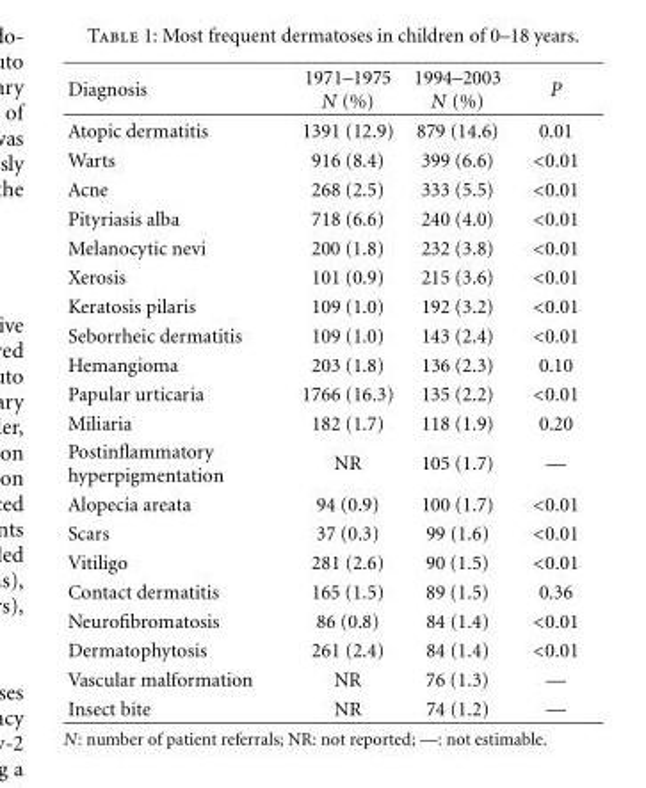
<table><thead><tr><td>Diagnosis</td><td>1971–1975 N (%)</td><td>1994–2003 N (%)</td><td>P</td></tr></thead><tbody><tr><td>Atopic dermatitis</td><td>1391 (12.9)</td><td>879 (14.6)</td><td>0.01</td></tr><tr><td>Warts</td><td>916 (8.4)</td><td>399 (6.6)</td><td>&lt;0.01</td></tr><tr><td>Acne</td><td>268 (2.5)</td><td>333 (5.5)</td><td>&lt;0.01</td></tr><tr><td>Pityriasis alba</td><td>718 (6.6)</td><td>240 (4.0)</td><td>&lt;0.01</td></tr><tr><td>Melanocytic nevi</td><td>200 (1.8)</td><td>232 (3.8)</td><td>&lt;0.01</td></tr><tr><td>Xerosis</td><td>101 (0.9)</td><td>215 (3.6)</td><td>&lt;0.01</td></tr><tr><td>Keratosis pilaris</td><td>109 (1.0)</td><td>192 (3.2)</td><td>&lt;0.01</td></tr><tr><td>Seborrheic dermatitis</td><td>109 (1.0)</td><td>143 (2.4)</td><td>&lt;0.01</td></tr><tr><td>Hemangioma</td><td>203 (1.8)</td><td>136 (2.3)</td><td>0.10</td></tr><tr><td>Papular urticaria</td><td>1766 (16.3)</td><td>135 (2.2)</td><td>&lt;0.01</td></tr><tr><td>Miliaria</td><td>182 (1.7)</td><td>118 (1.9)</td><td>0.20</td></tr><tr><td>Postinflammatory hyperpigmentation</td><td>NR</td><td>105 (1.7)</td><td>—</td></tr><tr><td>Alopecia areata</td><td>94 (0.9)</td><td>100 (1.7)</td><td>&lt;0.01</td></tr><tr><td>Scars</td><td>37 (0.3)</td><td>99 (1.6)</td><td>&lt;0.01</td></tr><tr><td>Vitiligo</td><td>281 (2.6)</td><td>90 (1.5)</td><td>&lt;0.01</td></tr><tr><td>Contact dermatitis</td><td>165 (1.5)</td><td>89 (1.5)</td><td>0.36</td></tr><tr><td>Neurofibromatosis</td><td>86 (0.8)</td><td>84 (1.4)</td><td>&lt;0.01</td></tr><tr><td>Dermatophytosis</td><td>261 (2.4)</td><td>84 (1.4)</td><td>&lt;0.01</td></tr><tr><td>Vascular malformation</td><td>NR</td><td>76 (1.3)</td><td>—</td></tr><tr><td>Insect bite</td><td>NR</td><td>74 (1.2)</td><td>—</td></tr></tbody></table>